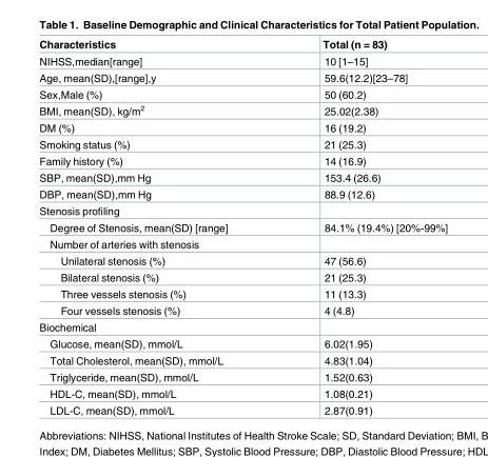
<table><thead><tr><td>Characteristics</td><td>Total (n = 83)</td></tr></thead><tbody><tr><td>NIHSS,median[range]</td><td>10 [1–15]</td></tr><tr><td>Age, mean(SD),[range],y</td><td>59.6(12.2)[23–78]</td></tr><tr><td>Sex,Male (%)</td><td>50 (60.2)</td></tr><tr><td>BMI, mean(SD), kg/m<sup>2</sup></td><td>25.02(2.38)</td></tr><tr><td>DM (%)</td><td>16 (19.2)</td></tr><tr><td>Smoking status (%)</td><td>21 (25.3)</td></tr><tr><td>Family history (%)</td><td>14 (16.9)</td></tr><tr><td>SBP, mean(SD),mm Hg</td><td>153.4 (26.6)</td></tr><tr><td>DBP, mean(SD),mm Hg</td><td>88.9 (12.6)</td></tr><tr><td colspan="2">Stenosis profiling</td></tr><tr><td>Degree of Stenosis, mean(SD) [range]</td><td>84.1% (19.4%) [20%-99%]</td></tr><tr><td colspan="2">Number of arteries with stenosis</td></tr><tr><td>Unilateral stenosis (%)</td><td>47 (56.6)</td></tr><tr><td>Bilateral stenosis (%)</td><td>21 (25.3)</td></tr><tr><td>Three vessels stenosis (%)</td><td>11 (13.3)</td></tr><tr><td>Four vessels stenosis (%)</td><td>4 (4.8)</td></tr><tr><td colspan="2">Biochemical</td></tr><tr><td>Glucose, mean(SD), mmol/L</td><td>6.02(1.95)</td></tr><tr><td>Total Cholesterol, mean(SD), mmol/L</td><td>4.83(1.04)</td></tr><tr><td>Triglyceride, mean(SD), mmol/L</td><td>1.52(0.63)</td></tr><tr><td>HDL-C, mean(SD), mmol/L</td><td>1.08(0.21)</td></tr><tr><td>LDL-C, mean(SD), mmol/L</td><td>2.87(0.91)</td></tr></tbody></table>